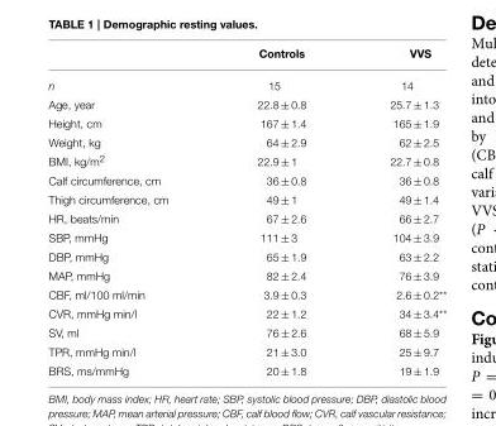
<table><thead><tr><td></td><td>Controls</td><td>VVS</td></tr></thead><tbody><tr><td>n</td><td>15</td><td>14</td></tr><tr><td>Age, year</td><td>22.8 ± 0.8</td><td>25.7 ± 1.3</td></tr><tr><td>Height, cm</td><td>167 ± 1.4</td><td>165 ± 1.9</td></tr><tr><td>Weight, kg</td><td>64 ± 2.9</td><td>62 ± 2.5</td></tr><tr><td>BMI, kg/m<sup>2</sup></td><td>22.9 ± 1</td><td>22.7 ± 0.8</td></tr><tr><td>Calf circumference, cm</td><td>36 ± 0.8</td><td>36 ± 0.8</td></tr><tr><td>Thigh circumference, cm</td><td>49 ± 1</td><td>49 ± 1.4</td></tr><tr><td>HR, beats/min</td><td>67 ± 2.6</td><td>66 ± 2.7</td></tr><tr><td>SBP, mmHg</td><td>111 ± 3</td><td>104 ± 3.9</td></tr><tr><td>DBP, mmHg</td><td>65 ± 1.9</td><td>63 ± 2.2</td></tr><tr><td>MAP, mmHg</td><td>82 ± 2.4</td><td>76 ± 3.9</td></tr><tr><td>CBF, ml/100 ml/min</td><td>3.9 ± 0.3</td><td>2.6 ± 0.2**</td></tr><tr><td>CVR, mmHg min/l</td><td>22 ± 1.2</td><td>34 ± 3.4**</td></tr><tr><td>SV, ml</td><td>76 ± 2.6</td><td>68 ± 5.9</td></tr><tr><td>TPR, mmHg min/l</td><td>21 ± 3.0</td><td>25 ± 9.7</td></tr><tr><td>BRS, ms/mmHg</td><td>20 ± 1.8</td><td>19 ± 1.9</td></tr></tbody></table>